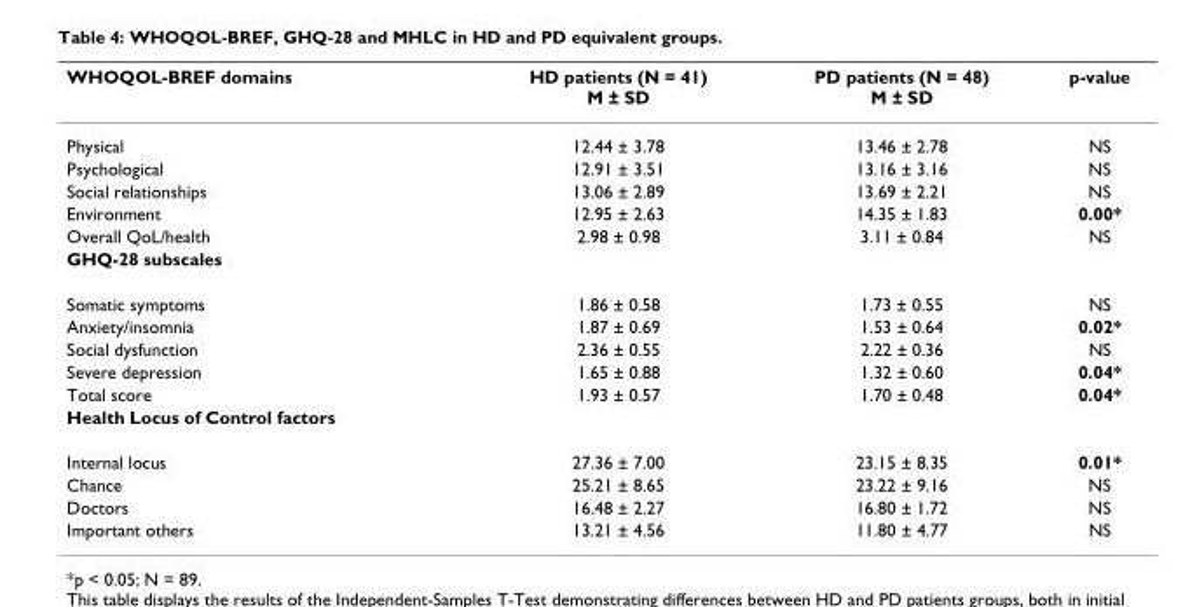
<table><thead><tr><td>WHOQOL-BREF domains</td><td>HD patients (N = 41) M ± SD</td><td>PD patients (N = 48) M ± SD</td><td>p-value</td></tr></thead><tbody><tr><td>Physical</td><td>12.44 ± 3.78</td><td>13.46 ± 2.78</td><td>NS</td></tr><tr><td>Psychological</td><td>12.91 ± 3.51</td><td>13.16 ± 3.16</td><td>NS</td></tr><tr><td>Social relationships</td><td>13.06 ± 2.89</td><td>13.69 ± 2.21</td><td>NS</td></tr><tr><td>Environment</td><td>12.95 ± 2.63</td><td>14.35 ± 1.83</td><td>0.00*</td></tr><tr><td>Overall QoL/health</td><td>2.98 ± 0.98</td><td>3.11 ± 0.84</td><td>NS</td></tr><tr><td colspan="4">GHQ-28 subscales</td></tr><tr><td>Somatic symptoms</td><td>1.86 ± 0.58</td><td>1.73 ± 0.55</td><td>NS</td></tr><tr><td>Anxiety/insomnia</td><td>1.87 ± 0.69</td><td>1.53 ± 0.64</td><td>0.02*</td></tr><tr><td>Social dysfunction</td><td>2.36 ± 0.55</td><td>2.22 ± 0.36</td><td>NS</td></tr><tr><td>Severe depression</td><td>1.65 ± 0.88</td><td>1.32 ± 0.60</td><td>0.04*</td></tr><tr><td>Total score</td><td>1.93 ± 0.57</td><td>1.70 ± 0.48</td><td>0.04*</td></tr><tr><td colspan="4">Health Locus of Control factors</td></tr><tr><td>Internal locus</td><td>27.36 ± 7.00</td><td>23.15 ± 8.35</td><td>0.01*</td></tr><tr><td>Chance</td><td>25.21 ± 8.65</td><td>23.22 ± 9.16</td><td>NS</td></tr><tr><td>Doctors</td><td>16.48 ± 2.27</td><td>16.80 ± 1.72</td><td>NS</td></tr><tr><td>Important others</td><td>13.21 ± 4.56</td><td>11.80 ± 4.77</td><td>NS</td></tr></tbody></table>